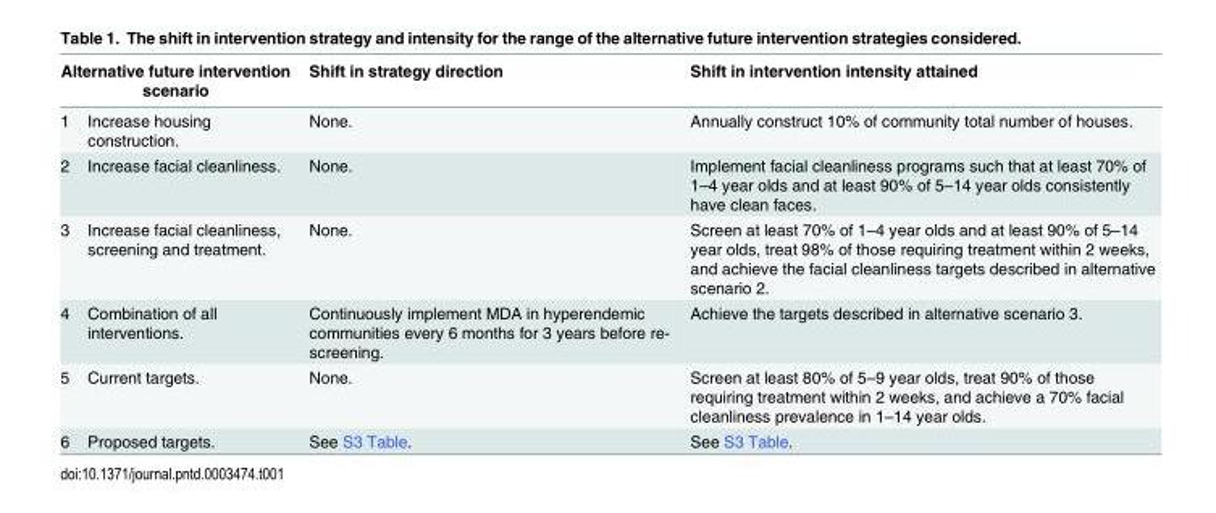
<table><thead><tr><td colspan="2">Alternative future intervention scenario</td><td rowspan="2">Shift in strategy direction None.</td><td rowspan="2">Shift in intervention intensity attained Annually construct 10% of community total number of houses.</td></tr><tr><td>1</td><td>Increase housing construction.</td></tr></thead><tbody><tr><td>2</td><td>Increase facial cleanliness.</td><td>None.</td><td>Implement facial cleanliness programs such that at least 70% of 1–4 year olds and at least 90% of 5–14 year olds consistently have clean faces.</td></tr><tr><td>3</td><td>Increase facial cleanliness, screening and treatment.</td><td>None.</td><td>Screen at least 70% of 1–4 year olds and at least 90% of 5–14 year olds, treat 98% of those requiring treatment within 2 weeks, and achieve the facial cleanliness targets described in alternative scenario 2.</td></tr><tr><td>4</td><td>Combination of all interventions.</td><td>Continuously implement MDA in hyperendemic communities every 6 months for 3 years before re- screening.</td><td>Achieve the targets described in alternative scenario 3.</td></tr><tr><td>5</td><td>Current targets.</td><td>None.</td><td>Screen at least 80% of 5–9 year olds, treat 90% of those requiring treatment within 2 weeks, and achieve a 70% facial cleanliness prevalence in 1–14 year olds.</td></tr><tr><td>6</td><td>Proposed targets.</td><td>See S3 Table.</td><td>See S3 Table.</td></tr></tbody></table>